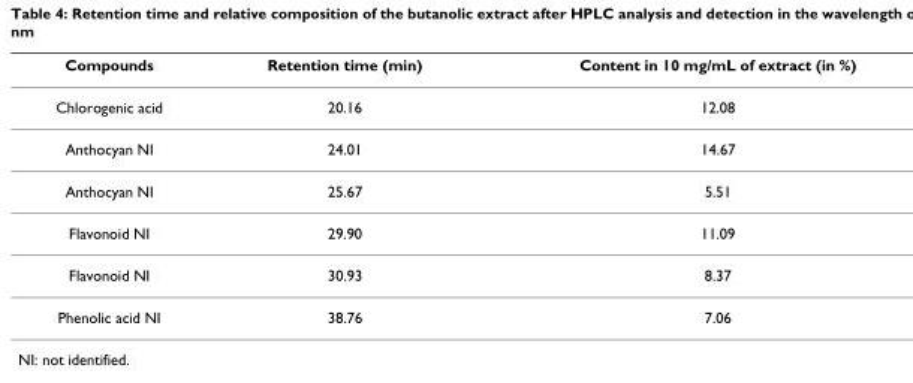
<table><thead><tr><td>Compounds</td><td>Retention time (min)</td><td>Content in 10 mg/mL of extract (in %)</td></tr></thead><tbody><tr><td>Chlorogenic acid</td><td>20.16</td><td>12.08</td></tr><tr><td>Anthocyan NI</td><td>24.01</td><td>14.67</td></tr><tr><td>Anthocyan NI</td><td>25.67</td><td>5.51</td></tr><tr><td>Flavonoid NI</td><td>29.90</td><td>11.09</td></tr><tr><td>Flavonoid NI</td><td>30.93</td><td>8.37</td></tr><tr><td>Phenolic acid NI</td><td>38.76</td><td>7.06</td></tr></tbody></table>